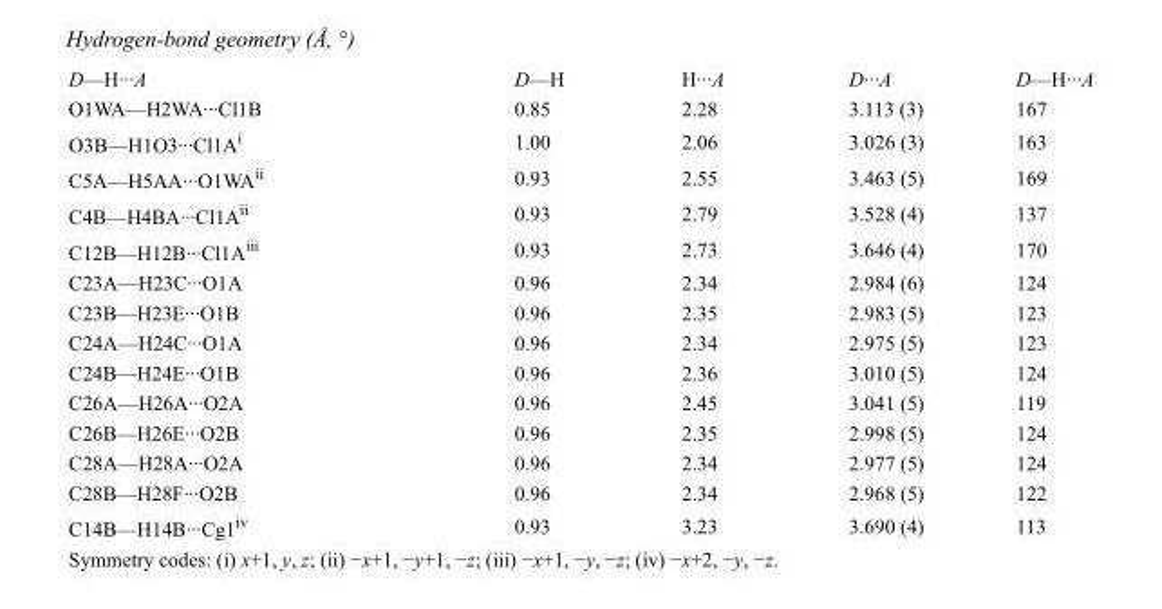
<table><tbody><tr><td>D—H···A</td><td>D—H</td><td>H···A</td><td>D···A</td><td>D—H···A</td></tr><tr><td>O1WA—H2WA···Cl1B</td><td>0.85</td><td>2.28</td><td>3.113 (3)</td><td>167</td></tr><tr><td>O3B—H1O3···Cl1A<sup>i</sup></td><td>1.00</td><td>2.06</td><td>3.026 (3)</td><td>163</td></tr><tr><td>C5A—H5AA···O1WA<sup>ii</sup></td><td>0.93</td><td>2.55</td><td>3.463 (5)</td><td>169</td></tr><tr><td>C4B—H4BA···Cl1A<sup>ii</sup></td><td>0.93</td><td>2.79</td><td>3.528 (4)</td><td>137</td></tr><tr><td>C12B—H12B···Cl1A<sup>iii</sup></td><td>0.93</td><td>2.73</td><td>3.646 (4)</td><td>170</td></tr><tr><td>C23A—H23C···O1A</td><td>0.96</td><td>2.34</td><td>2.984 (6)</td><td>124</td></tr><tr><td>C23B—H23E···O1B</td><td>0.96</td><td>2.35</td><td>2.983 (5)</td><td>123</td></tr><tr><td>C24A—H24C···O1A</td><td>0.96</td><td>2.34</td><td>2.975 (5)</td><td>123</td></tr><tr><td>C24B—H24E···O1B</td><td>0.96</td><td>2.36</td><td>3.010 (5)</td><td>124</td></tr><tr><td>C26A—H26A···O2A</td><td>0.96</td><td>2.45</td><td>3.041 (5)</td><td>119</td></tr><tr><td>C26B—H26E···O2B</td><td>0.96</td><td>2.35</td><td>2.998 (5)</td><td>124</td></tr><tr><td>C28A—H28A···O2A</td><td>0.96</td><td>2.34</td><td>2.977 (5)</td><td>124</td></tr><tr><td>C28B—H28F···O2B</td><td>0.96</td><td>2.34</td><td>2.968 (5)</td><td>122</td></tr><tr><td>C14B—H14B···Cg1<sup>iv</sup></td><td>0.93</td><td>3.23</td><td>3.690 (4)</td><td>113</td></tr></tbody></table>